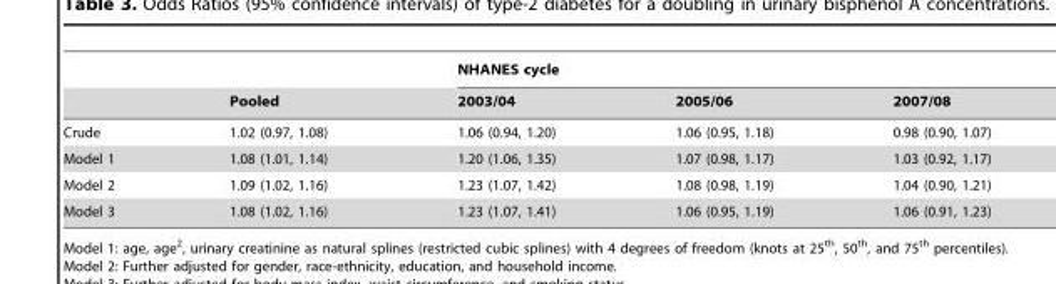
<table><thead><tr><td rowspan="2"></td><td rowspan="2">Pooled</td><td colspan="3">NHANES cycle</td></tr><tr><td>2003/04</td><td>2005/06</td><td>2007/08</td></tr></thead><tbody><tr><td>Crude</td><td>1.02 (0.97, 1.08)</td><td>1.06 (0.94, 1.20)</td><td>1.06 (0.95, 1.18)</td><td>0.98 (0.90, 1.07)</td></tr><tr><td>Model 1</td><td>1.08 (1.01, 1.14)</td><td>1.20 (1.06, 1.35)</td><td>1.07 (0.98, 1.17)</td><td>1.03 (0.92, 1.17)</td></tr><tr><td>Model 2</td><td>1.09 (1.02, 1.16)</td><td>1.23 (1.07, 1.42)</td><td>1.08 (0.98, 1.19)</td><td>1.04 (0.90, 1.21)</td></tr><tr><td>Model 3</td><td>1.08 (1.02, 1.16)</td><td>1.23 (1.07, 1.41)</td><td>1.06 (0.95, 1.19)</td><td>1.06 (0.91, 1.23)</td></tr></tbody></table>